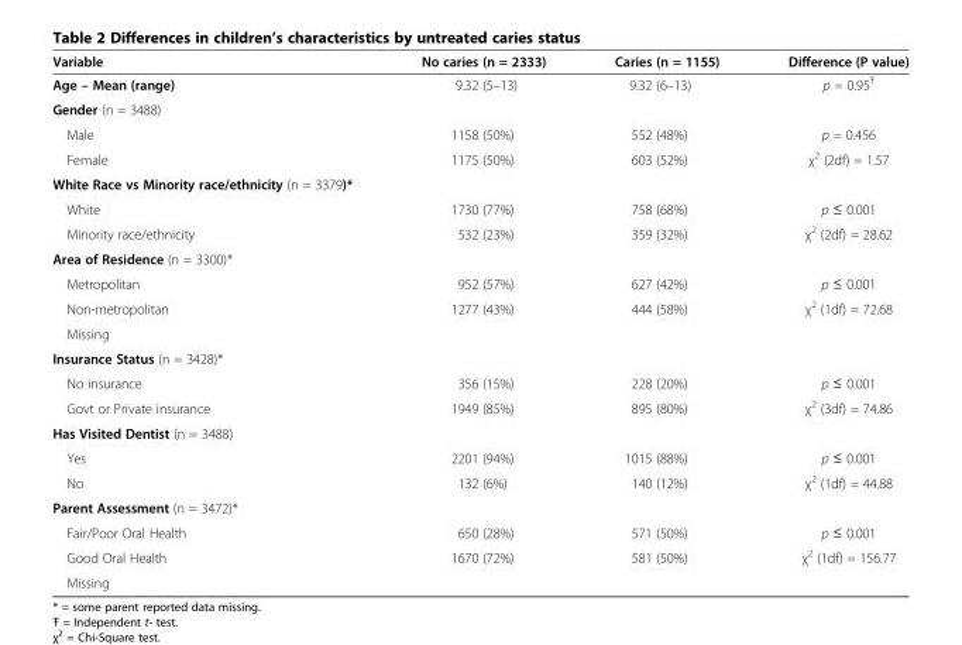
<table><thead><tr><td>Variable</td><td>No caries (n = 2333)</td><td>Caries (n = 1155)</td><td>Difference (P value)</td></tr></thead><tbody><tr><td>Age – Mean (range)</td><td>9.32 (5–13)</td><td>9.32 (6–13)</td><td>p = 0.95<sup>Ŧ</sup></td></tr><tr><td colspan="4">Gender (n = 3488)</td></tr><tr><td>Male</td><td>1158 (50%)</td><td>552 (48%)</td><td>p = 0.456</td></tr><tr><td>Female</td><td>1175 (50%)</td><td>603 (52%)</td><td>χ<sup>2</sup> (2df) = 1.57</td></tr><tr><td colspan="4">White Race vs Minority race/ethnicity (n = 3379)*</td></tr><tr><td>White</td><td>1730 (77%)</td><td>758 (68%)</td><td>p ≤ 0.001</td></tr><tr><td>Minority race/ethnicity</td><td>532 (23%)</td><td>359 (32%)</td><td>χ<sup>2</sup> (2df) = 28.62</td></tr><tr><td colspan="4">Area of Residence (n = 3300)*</td></tr><tr><td>Metropolitan</td><td>952 (57%)</td><td>627 (42%)</td><td>p ≤ 0.001</td></tr><tr><td>Non-metropolitan</td><td>1277 (43%)</td><td>444 (58%)</td><td>χ<sup>2</sup> (1df) = 72.68</td></tr><tr><td colspan="4">Missing</td></tr><tr><td colspan="4">Insurance Status (n = 3428)*</td></tr><tr><td>No insurance</td><td>356 (15%)</td><td>228 (20%)</td><td>p ≤ 0.001</td></tr><tr><td>Govt or Private insurance</td><td>1949 (85%)</td><td>895 (80%)</td><td>χ<sup>2</sup> (3df) = 74.86</td></tr><tr><td colspan="4">Has Visited Dentist (n = 3488)</td></tr><tr><td>Yes</td><td>2201 (94%)</td><td>1015 (88%)</td><td>p ≤ 0.001</td></tr><tr><td>No</td><td>132 (6%)</td><td>140 (12%)</td><td>χ<sup>2</sup> (1df) = 44.88</td></tr><tr><td colspan="4">Parent Assessment (n = 3472)*</td></tr><tr><td>Fair/Poor Oral Health</td><td>650 (28%)</td><td>571 (50%)</td><td>p ≤ 0.001</td></tr><tr><td>Good Oral Health</td><td>1670 (72%)</td><td>581 (50%)</td><td>χ<sup>2</sup> (1df) = 156.77</td></tr><tr><td>Missing</td><td></td><td></td><td></td></tr></tbody></table>